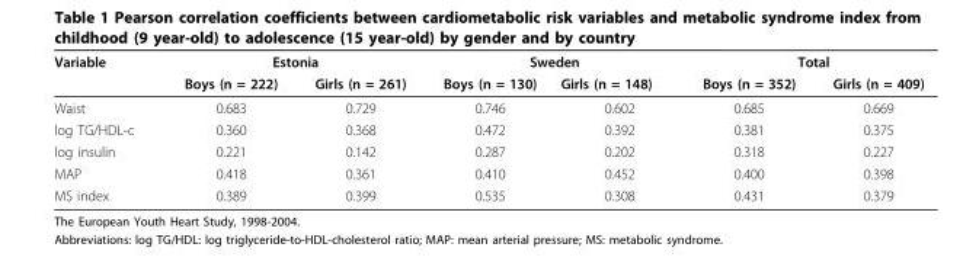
<table><thead><tr><td rowspan="2">Variable</td><td colspan="2">Estonia</td><td colspan="2">Sweden</td><td colspan="2">Total</td></tr><tr><td>Boys (n = 222)</td><td>Girls (n = 261)</td><td>Boys (n = 130)</td><td>Girls (n = 148)</td><td>Boys (n = 352)</td><td>Girls (n = 409)</td></tr></thead><tbody><tr><td>Waist</td><td>0.683</td><td>0.729</td><td>0.746</td><td>0.602</td><td>0.685</td><td>0.669</td></tr><tr><td>log TG/HDL-c</td><td>0.360</td><td>0.368</td><td>0.472</td><td>0.392</td><td>0.381</td><td>0.375</td></tr><tr><td>log insulin</td><td>0.221</td><td>0.142</td><td>0.287</td><td>0.202</td><td>0.318</td><td>0.227</td></tr><tr><td>MAP</td><td>0.418</td><td>0.361</td><td>0.410</td><td>0.452</td><td>0.400</td><td>0.398</td></tr><tr><td>MS index</td><td>0.389</td><td>0.399</td><td>0.535</td><td>0.308</td><td>0.431</td><td>0.379</td></tr></tbody></table>